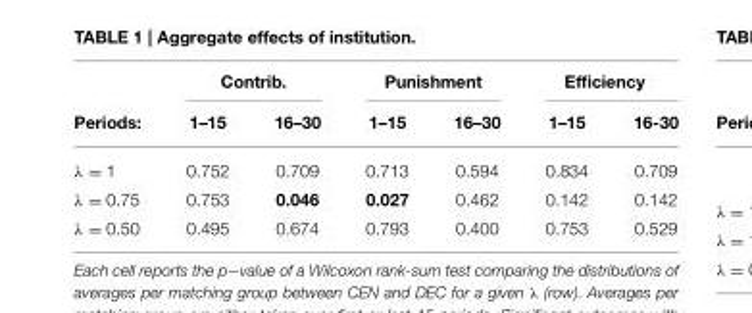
<table><thead><tr><td rowspan="2">Periods:</td><td colspan="2">Contrib.</td><td colspan="2">Punishment</td><td colspan="2">Efficiency</td></tr><tr><td>1–15</td><td>16–30</td><td>1–15</td><td>16–30</td><td>1–15</td><td>16-30</td></tr></thead><tbody><tr><td>λ = 1</td><td>0.752</td><td>0.709</td><td>0.713</td><td>0.594</td><td>0.834</td><td>0.709</td></tr><tr><td>λ = 0.75</td><td>0.753</td><td>0.046</td><td>0.027</td><td>0.462</td><td>0.142</td><td>0.142</td></tr><tr><td>λ = 0.50</td><td>0.495</td><td>0.674</td><td>0.793</td><td>0.400</td><td>0.753</td><td>0.529</td></tr></tbody></table>